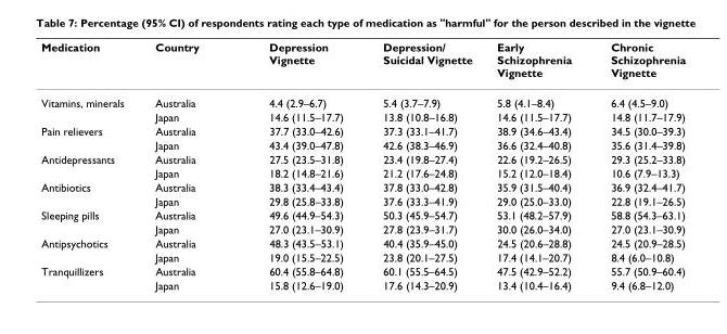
<table><thead><tr><td>Medication</td><td>Country</td><td>Depression Vignette</td><td>Depression/ Suicidal Vignette</td><td>Early Schizophrenia Vignette</td><td>Chronic Schizophrenia Vignette</td></tr></thead><tbody><tr><td rowspan="2">Vitamins, minerals</td><td>Australia</td><td>4.4 (2.9–6.7)</td><td>5.4 (3.7–7.9)</td><td>5.8 (4.1–8.4)</td><td>6.4 (4.5–9.0)</td></tr><tr><td>Japan</td><td>14.6 (11.5–17.7)</td><td>13.8 (10.8–16.8)</td><td>14.6 (11.5–17.7)</td><td>14.8 (11.7–17.9)</td></tr><tr><td rowspan="2">Pain relievers</td><td>Australia</td><td>37.7 (33.0–42.6)</td><td>37.3 (33.1–41.7)</td><td>38.9 (34.6–43.4)</td><td>34.5 (30.0–39.3)</td></tr><tr><td>Japan</td><td>43.4 (39.0–47.8)</td><td>42.6 (38.3–46.9)</td><td>36.6 (32.4–40.8)</td><td>35.6 (31.4–39.8)</td></tr><tr><td rowspan="2">Antidepressants</td><td>Australia</td><td>27.5 (23.5–31.8)</td><td>23.4 (19.8–27.4)</td><td>22.6 (19.2–26.5)</td><td>29.3 (25.2–33.8)</td></tr><tr><td>Japan</td><td>18.2 (14.8–21.6)</td><td>21.2 (17.6–24.8)</td><td>15.2 (12.0–18.4)</td><td>10.6 (7.9–13.3)</td></tr><tr><td rowspan="2">Antibiotics</td><td>Australia</td><td>38.3 (33.4–43.4)</td><td>37.8 (33.0–42.8)</td><td>35.9 (31.5–40.4)</td><td>36.9 (32.4–41.7)</td></tr><tr><td>Japan</td><td>29.8 (25.8–33.8)</td><td>37.6 (33.3–41.9)</td><td>29.0 (25.0–33.0)</td><td>22.8 (19.1–26.5)</td></tr><tr><td rowspan="2">Sleeping pills</td><td>Australia</td><td>49.6 (44.9–54.3)</td><td>50.3 (45.9–54.7)</td><td>53.1 (48.2–57.9)</td><td>58.8 (54.3–63.1)</td></tr><tr><td>Japan</td><td>27.0 (23.1–30.9)</td><td>27.8 (23.9–31.7)</td><td>30.0 (26.0–34.0)</td><td>27.0 (23.1–30.9)</td></tr><tr><td rowspan="2">Antipsychotics</td><td>Australia</td><td>48.3 (43.5–53.1)</td><td>40.4 (35.9–45.0)</td><td>24.5 (20.6–28.8)</td><td>24.5 (20.9–28.5)</td></tr><tr><td>Japan</td><td>19.0 (15.5–22.5)</td><td>23.8 (20.1–27.5)</td><td>17.4 (14.1–20.7)</td><td>8.4 (6.0–10.8)</td></tr><tr><td rowspan="2">Tranquillizers</td><td>Australia</td><td>60.4 (55.8–64.8)</td><td>60.1 (55.5–64.5)</td><td>47.5 (42.9–52.2)</td><td>55.7 (50.9–60.4)</td></tr><tr><td>Japan</td><td>15.8 (12.6–19.0)</td><td>17.6 (14.3–20.9)</td><td>13.4 (10.4–16.4)</td><td>9.4 (6.8–12.0)</td></tr></tbody></table>